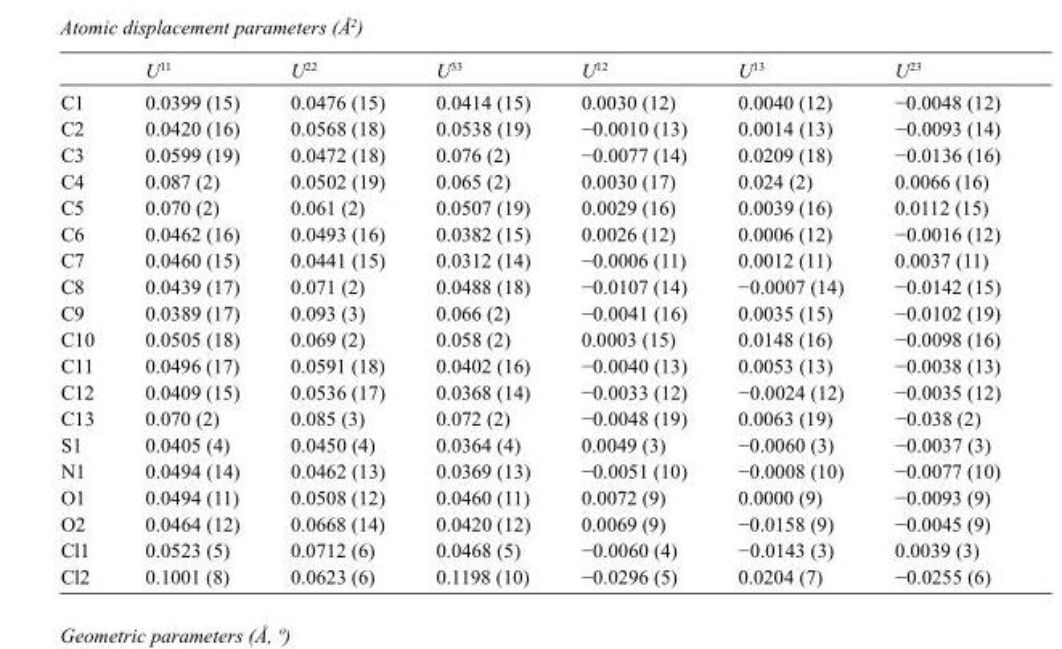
<table><thead><tr><td></td><td>U<sup>11</sup></td><td>U<sup>22</sup></td><td>U<sup>33</sup></td><td>U<sup>12</sup></td><td>U<sup>13</sup></td><td>U<sup>23</sup></td></tr></thead><tbody><tr><td>C1</td><td>0.0399 (15)</td><td>0.0476 (15)</td><td>0.0414 (15)</td><td>0.0030 (12)</td><td>0.0040 (12)</td><td>−0.0048 (12)</td></tr><tr><td>C2</td><td>0.0420 (16)</td><td>0.0568 (18)</td><td>0.0538 (19)</td><td>−0.0010 (13)</td><td>0.0014 (13)</td><td>−0.0093 (14)</td></tr><tr><td>C3</td><td>0.0599 (19)</td><td>0.0472 (18)</td><td>0.076 (2)</td><td>−0.0077 (14)</td><td>0.0209 (18)</td><td>−0.0136 (16)</td></tr><tr><td>C4</td><td>0.087 (2)</td><td>0.0502 (19)</td><td>0.065 (2)</td><td>0.0030 (17)</td><td>0.024 (2)</td><td>0.0066 (16)</td></tr><tr><td>C5</td><td>0.070 (2)</td><td>0.061 (2)</td><td>0.0507 (19)</td><td>0.0029 (16)</td><td>0.0039 (16)</td><td>0.0112 (15)</td></tr><tr><td>C6</td><td>0.0462 (16)</td><td>0.0493 (16)</td><td>0.0382 (15)</td><td>0.0026 (12)</td><td>0.0006 (12)</td><td>−0.0016 (12)</td></tr><tr><td>C7</td><td>0.0460 (15)</td><td>0.0441 (15)</td><td>0.0312 (14)</td><td>−0.0006 (11)</td><td>0.0012 (11)</td><td>0.0037 (11)</td></tr><tr><td>C8</td><td>0.0439 (17)</td><td>0.071 (2)</td><td>0.0488 (18)</td><td>−0.0107 (14)</td><td>−0.0007 (14)</td><td>−0.0142 (15)</td></tr><tr><td>C9</td><td>0.0389 (17)</td><td>0.093 (3)</td><td>0.066 (2)</td><td>−0.0041 (16)</td><td>0.0035 (15)</td><td>−0.0102 (19)</td></tr><tr><td>C10</td><td>0.0505 (18)</td><td>0.069 (2)</td><td>0.058 (2)</td><td>0.0003 (15)</td><td>0.0148 (16)</td><td>−0.0098 (16)</td></tr><tr><td>C11</td><td>0.0496 (17)</td><td>0.0591 (18)</td><td>0.0402 (16)</td><td>−0.0040 (13)</td><td>0.0053 (13)</td><td>−0.0038 (13)</td></tr><tr><td>C12</td><td>0.0409 (15)</td><td>0.0536 (17)</td><td>0.0368 (14)</td><td>−0.0033 (12)</td><td>−0.0024 (12)</td><td>−0.0035 (12)</td></tr><tr><td>C13</td><td>0.070 (2)</td><td>0.085 (3)</td><td>0.072 (2)</td><td>−0.0048 (19)</td><td>0.0063 (19)</td><td>−0.038 (2)</td></tr><tr><td>S1</td><td>0.0405 (4)</td><td>0.0450 (4)</td><td>0.0364 (4)</td><td>0.0049 (3)</td><td>−0.0060 (3)</td><td>−0.0037 (3)</td></tr><tr><td>N1</td><td>0.0494 (14)</td><td>0.0462 (13)</td><td>0.0369 (13)</td><td>−0.0051 (10)</td><td>−0.0008 (10)</td><td>−0.0077 (10)</td></tr><tr><td>O1</td><td>0.0494 (11)</td><td>0.0508 (12)</td><td>0.0460 (11)</td><td>0.0072 (9)</td><td>0.0000 (9)</td><td>−0.0093 (9)</td></tr><tr><td>O2</td><td>0.0464 (12)</td><td>0.0668 (14)</td><td>0.0420 (12)</td><td>0.0069 (9)</td><td>−0.0158 (9)</td><td>−0.0045 (9)</td></tr><tr><td>Cl1</td><td>0.0523 (5)</td><td>0.0712 (6)</td><td>0.0468 (5)</td><td>−0.0060 (4)</td><td>−0.0143 (3)</td><td>0.0039 (3)</td></tr><tr><td>Cl2</td><td>0.1001 (8)</td><td>0.0623 (6)</td><td>0.1198 (10)</td><td>−0.0296 (5)</td><td>0.0204 (7)</td><td>−0.0255 (6)</td></tr></tbody></table>